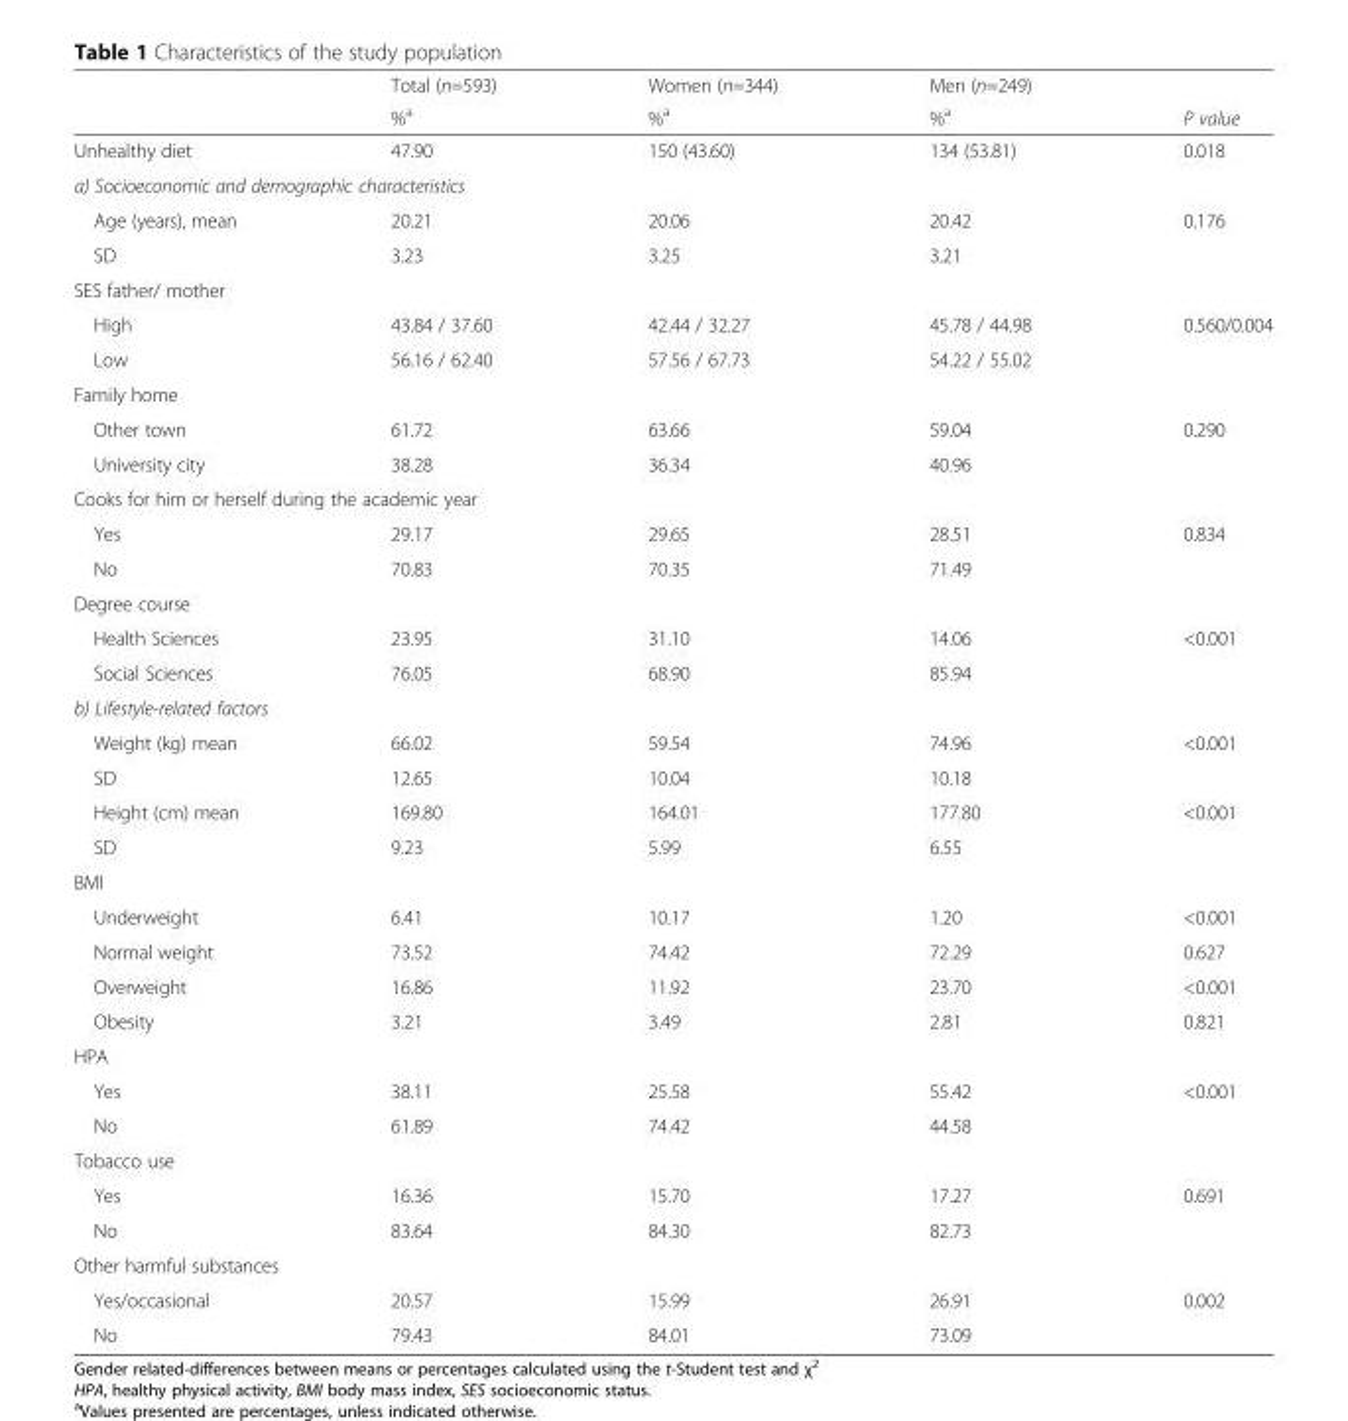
<table><thead><tr><td rowspan="2"></td><td rowspan="2">Total (n=593) %<sup>a</sup></td><td rowspan="2">Women (n=344) %<sup>a</sup></td><td rowspan="2">Men (n=249) %<sup>a</sup></td><td rowspan="2">P value</td></tr><tr></tr></thead><tbody><tr><td>Unhealthy diet</td><td>47.90</td><td>150 (43.60)</td><td>134 (53.81)</td><td>0.018</td></tr><tr><td colspan="5">a) Socioeconomic and demographic characteristics</td></tr><tr><td>Age (years), mean</td><td>20.21</td><td>20.06</td><td>20.42</td><td>0.176</td></tr><tr><td>SD</td><td>3.23</td><td>3.25</td><td>3.21</td><td></td></tr><tr><td colspan="5">SES father/ mother</td></tr><tr><td>High</td><td>43.84 / 37.60</td><td>42.44 / 32.27</td><td>45.78 / 44.98</td><td>0.560/0.004</td></tr><tr><td>Low</td><td>56.16 / 62.40</td><td>57.56 / 67.73</td><td>54.22 / 55.02</td><td></td></tr><tr><td colspan="5">Family home</td></tr><tr><td>Other town</td><td>61.72</td><td>63.66</td><td>59.04</td><td>0.290</td></tr><tr><td>University city</td><td>38.28</td><td>36.34</td><td>40.96</td><td></td></tr><tr><td colspan="5">Cooks for him or herself during the academic year</td></tr><tr><td>Yes</td><td>29.17</td><td>29.65</td><td>28.51</td><td>0.834</td></tr><tr><td>No</td><td>70.83</td><td>70.35</td><td>71.49</td><td></td></tr><tr><td colspan="5">Degree course</td></tr><tr><td>Health Sciences</td><td>23.95</td><td>31.10</td><td>14.06</td><td>&lt;0.001</td></tr><tr><td>Social Sciences</td><td>76.05</td><td>68.90</td><td>85.94</td><td></td></tr><tr><td colspan="5">b) Lifestyle-related factors</td></tr><tr><td>Weight (kg) mean</td><td>66.02</td><td>59.54</td><td>74.96</td><td>&lt;0.001</td></tr><tr><td>SD</td><td>12.65</td><td>10.04</td><td>10.18</td><td></td></tr><tr><td>Height (cm) mean</td><td>169.80</td><td>164.01</td><td>177.80</td><td>&lt;0.001</td></tr><tr><td>SD</td><td>9.23</td><td>5.99</td><td>6.55</td><td></td></tr><tr><td colspan="5">BMI</td></tr><tr><td>Underweight</td><td>6.41</td><td>10.17</td><td>1.20</td><td>&lt;0.001</td></tr><tr><td>Normal weight</td><td>73.52</td><td>74.42</td><td>72.29</td><td>0.627</td></tr><tr><td>Overweight</td><td>16.86</td><td>11.92</td><td>23.70</td><td>&lt;0.001</td></tr><tr><td>Obesity</td><td>3.21</td><td>3.49</td><td>2.81</td><td>0.821</td></tr><tr><td colspan="5">HPA</td></tr><tr><td>Yes</td><td>38.11</td><td>25.58</td><td>55.42</td><td>&lt;0.001</td></tr><tr><td>No</td><td>61.89</td><td>74.42</td><td>44.58</td><td></td></tr><tr><td colspan="5">Tobacco use</td></tr><tr><td>Yes</td><td>16.36</td><td>15.70</td><td>17.27</td><td>0.691</td></tr><tr><td>No</td><td>83.64</td><td>84.30</td><td>82.73</td><td></td></tr><tr><td colspan="5">Other harmful substances</td></tr><tr><td>Yes/occasional</td><td>20.57</td><td>15.99</td><td>26.91</td><td>0.002</td></tr><tr><td>No</td><td>79.43</td><td>84.01</td><td>73.09</td><td></td></tr></tbody></table>